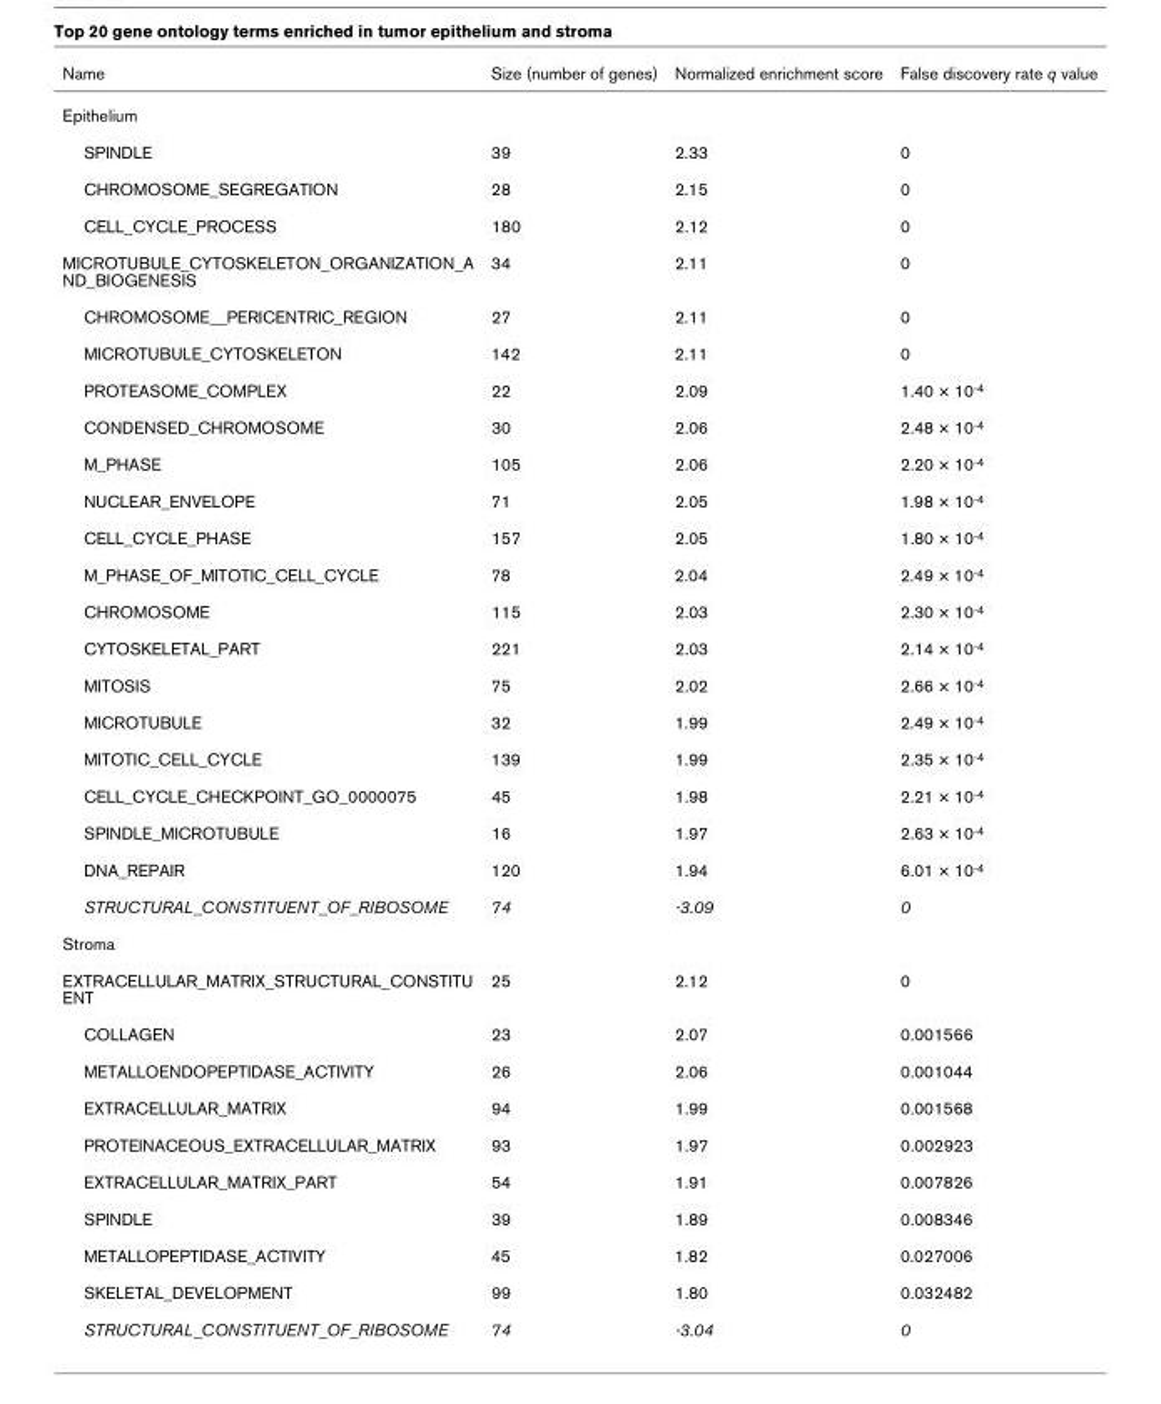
<table><thead><tr><td>Name</td><td>Size (number of genes)</td><td>Normalized enrichment score</td><td>False discovery rate q value</td></tr></thead><tbody><tr><td colspan="4">Epithelium</td></tr><tr><td>SPINDLE</td><td>39</td><td>2.33</td><td>0</td></tr><tr><td>CHROMOSOME_SEGREGATION</td><td>28</td><td>2.15</td><td>0</td></tr><tr><td>CELL_CYCLE_PROCESS</td><td>180</td><td>2.12</td><td>0</td></tr><tr><td>MICROTUBULE_CYTOSKELETON_ORGANIZATION_A ND_BIOGENESIS</td><td>34</td><td>2.11</td><td>0</td></tr><tr><td>CHROMOSOME__PERICENTRIC_REGION</td><td>27</td><td>2.11</td><td>0</td></tr><tr><td>MICROTUBULE_CYTOSKELETON</td><td>142</td><td>2.11</td><td>0</td></tr><tr><td>PROTEASOME_COMPLEX</td><td>22</td><td>2.09</td><td>1.40 × 10<sup>-4</sup></td></tr><tr><td>CONDENSED_CHROMOSOME</td><td>30</td><td>2.06</td><td>2.48 × 10<sup>-4</sup></td></tr><tr><td>M_PHASE</td><td>105</td><td>2.06</td><td>2.20 × 10<sup>-4</sup></td></tr><tr><td>NUCLEAR_ENVELOPE</td><td>71</td><td>2.05</td><td>1.98 × 10<sup>-4</sup></td></tr><tr><td>CELL_CYCLE_PHASE</td><td>157</td><td>2.05</td><td>1.80 × 10<sup>-4</sup></td></tr><tr><td>M_PHASE_OF_MITOTIC_CELL_CYCLE</td><td>78</td><td>2.04</td><td>2.49 × 10<sup>-4</sup></td></tr><tr><td>CHROMOSOME</td><td>115</td><td>2.03</td><td>2.30 × 10<sup>-4</sup></td></tr><tr><td>CYTOSKELETAL_PART</td><td>221</td><td>2.03</td><td>2.14 × 10<sup>-4</sup></td></tr><tr><td>MITOSIS</td><td>75</td><td>2.02</td><td>2.66 × 10<sup>-4</sup></td></tr><tr><td>MICROTUBULE</td><td>32</td><td>1.99</td><td>2.49 × 10<sup>-4</sup></td></tr><tr><td>MITOTIC_CELL_CYCLE</td><td>139</td><td>1.99</td><td>2.35 × 10<sup>-4</sup></td></tr><tr><td>CELL_CYCLE_CHECKPOINT_GO_0000075</td><td>45</td><td>1.98</td><td>2.21 × 10<sup>-4</sup></td></tr><tr><td>SPINDLE_MICROTUBULE</td><td>16</td><td>1.97</td><td>2.63 × 10<sup>-4</sup></td></tr><tr><td>DNA_REPAIR</td><td>120</td><td>1.94</td><td>6.01 × 10<sup>-4</sup></td></tr><tr><td>STRUCTURAL_CONSTITUENT_OF_RIBOSOME</td><td>74</td><td>-3.09</td><td>0</td></tr><tr><td colspan="4">Stroma</td></tr><tr><td>EXTRACELLULAR_MATRIX_STRUCTURAL_CONSTITU ENT</td><td>25</td><td>2.12</td><td>0</td></tr><tr><td>COLLAGEN</td><td>23</td><td>2.07</td><td>0.001566</td></tr><tr><td>METALLOENDOPEPTIDASE_ACTIVITY</td><td>26</td><td>2.06</td><td>0.001044</td></tr><tr><td>EXTRACELLULAR_MATRIX</td><td>94</td><td>1.99</td><td>0.001568</td></tr><tr><td>PROTEINACEOUS_EXTRACELLULAR_MATRIX</td><td>93</td><td>1.97</td><td>0.002923</td></tr><tr><td>EXTRACELLULAR_MATRIX_PART</td><td>54</td><td>1.91</td><td>0.007826</td></tr><tr><td>SPINDLE</td><td>39</td><td>1.89</td><td>0.008346</td></tr><tr><td>METALLOPEPTIDASE_ACTIVITY</td><td>45</td><td>1.82</td><td>0.027006</td></tr><tr><td>SKELETAL_DEVELOPMENT</td><td>99</td><td>1.80</td><td>0.032482</td></tr><tr><td>STRUCTURAL_CONSTITUENT_OF_RIBOSOME</td><td>74</td><td>-3.04</td><td>0</td></tr></tbody></table>